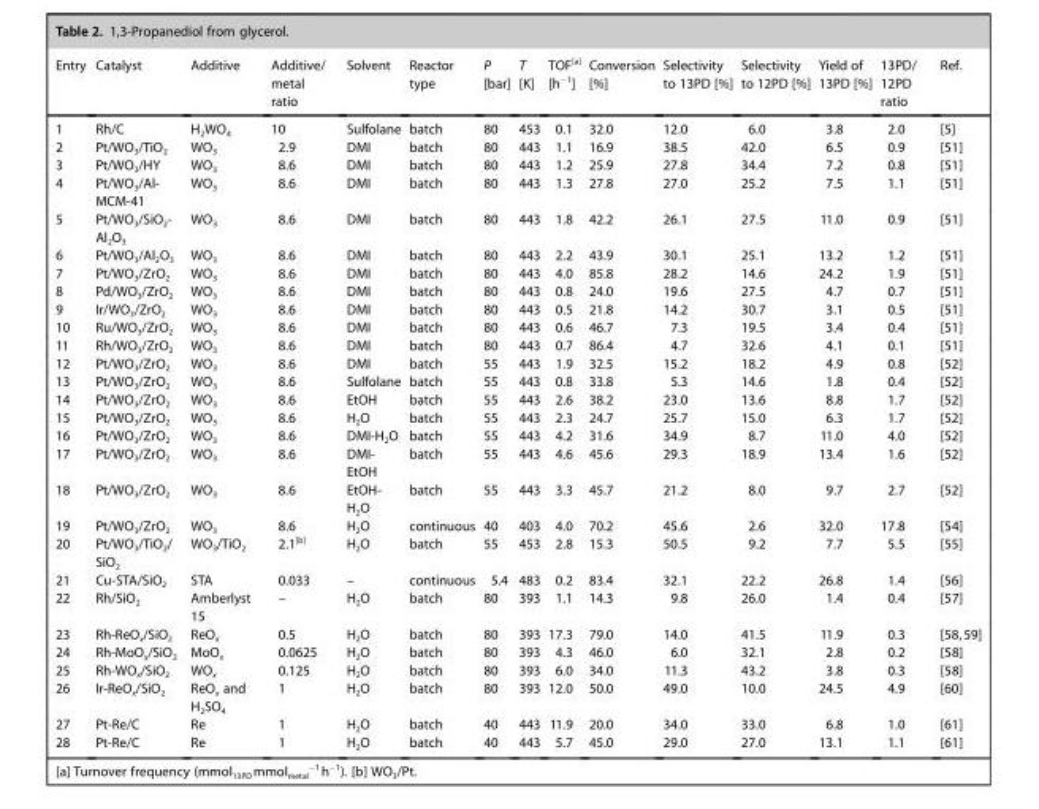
<table><thead><tr><td>Entry</td><td>Catalyst</td><td>Additive</td><td>Additive/ metal ratio</td><td>Solvent</td><td>Reactor type</td><td>P [bar]</td><td>T [K]</td><td>TOF[a] [h<sup>−1</sup>]</td><td>Conversion [%]</td><td>Selectivity to 13PD [%]</td><td>Selectivity to 12PD [%]</td><td>Yield of 13PD [%]</td><td>13PD/ 12PD ratio</td><td>Ref.</td></tr></thead><tbody><tr><td>1</td><td>Rh/C</td><td>H<sub>2</sub>WO<sub>4</sub></td><td>10</td><td>Sulfolane</td><td>batch</td><td>80</td><td>453</td><td>0.1</td><td>32.0</td><td>12.0</td><td>6.0</td><td>3.8</td><td>2.0</td><td>[5]</td></tr><tr><td>2</td><td>Pt/WO<sub>3</sub>/TiO<sub>2</sub></td><td>WO<sub>3</sub></td><td>2.9</td><td>DMI</td><td>batch</td><td>80</td><td>443</td><td>1.1</td><td>16.9</td><td>38.5</td><td>42.0</td><td>6.5</td><td>0.9</td><td>[51]</td></tr><tr><td>3</td><td>Pt/WO<sub>3</sub>/HY</td><td>WO<sub>3</sub></td><td>8.6</td><td>DMI</td><td>batch</td><td>80</td><td>443</td><td>1.2</td><td>25.9</td><td>27.8</td><td>34.4</td><td>7.2</td><td>0.8</td><td>[51]</td></tr><tr><td>4</td><td>Pt/WO<sub>3</sub>/Al- MCM-41</td><td>WO<sub>3</sub></td><td>8.6</td><td>DMI</td><td>batch</td><td>80</td><td>443</td><td>1.3</td><td>27.8</td><td>27.0</td><td>25.2</td><td>7.5</td><td>1.1</td><td>[51]</td></tr><tr><td>5</td><td>Pt/WO<sub>3</sub>/SiO<sub>2</sub>- Al<sub>2</sub>O<sub>3</sub></td><td>WO<sub>3</sub></td><td>8.6</td><td>DMI</td><td>batch</td><td>80</td><td>443</td><td>1.8</td><td>42.2</td><td>26.1</td><td>27.5</td><td>11.0</td><td>0.9</td><td>[51]</td></tr><tr><td>6</td><td>Pt/WO<sub>3</sub>/Al<sub>2</sub>O<sub>3</sub></td><td>WO<sub>3</sub></td><td>8.6</td><td>DMI</td><td>batch</td><td>80</td><td>443</td><td>2.2</td><td>43.9</td><td>30.1</td><td>25.1</td><td>13.2</td><td>1.2</td><td>[51]</td></tr><tr><td>7</td><td>Pt/WO<sub>3</sub>/ZrO<sub>2</sub></td><td>WO<sub>3</sub></td><td>8.6</td><td>DMI</td><td>batch</td><td>80</td><td>443</td><td>4.0</td><td>85.8</td><td>28.2</td><td>14.6</td><td>24.2</td><td>1.9</td><td>[51]</td></tr><tr><td>8</td><td>Pd/WO<sub>3</sub>/ZrO<sub>2</sub></td><td>WO<sub>3</sub></td><td>8.6</td><td>DMI</td><td>batch</td><td>80</td><td>443</td><td>0.8</td><td>24.0</td><td>19.6</td><td>27.5</td><td>4.7</td><td>0.7</td><td>[51]</td></tr><tr><td>9</td><td>Ir/WO<sub>3</sub>/ZrO<sub>2</sub></td><td>WO<sub>3</sub></td><td>8.6</td><td>DMI</td><td>batch</td><td>80</td><td>443</td><td>0.5</td><td>21.8</td><td>14.2</td><td>30.7</td><td>3.1</td><td>0.5</td><td>[51]</td></tr><tr><td>10</td><td>Ru/WO<sub>3</sub>/ZrO<sub>2</sub></td><td>WO<sub>3</sub></td><td>8.6</td><td>DMI</td><td>batch</td><td>80</td><td>443</td><td>0.6</td><td>46.7</td><td>7.3</td><td>19.5</td><td>3.4</td><td>0.4</td><td>[51]</td></tr><tr><td>11</td><td>Rh/WO<sub>3</sub>/ZrO<sub>2</sub></td><td>WO<sub>3</sub></td><td>8.6</td><td>DMI</td><td>batch</td><td>80</td><td>443</td><td>0.7</td><td>86.4</td><td>4.7</td><td>32.6</td><td>4.1</td><td>0.1</td><td>[51]</td></tr><tr><td>12</td><td>Pt/WO<sub>3</sub>/ZrO<sub>2</sub></td><td>WO<sub>3</sub></td><td>8.6</td><td>DMI</td><td>batch</td><td>55</td><td>443</td><td>1.9</td><td>32.5</td><td>15.2</td><td>18.2</td><td>4.9</td><td>0.8</td><td>[52]</td></tr><tr><td>13</td><td>Pt/WO<sub>3</sub>/ZrO<sub>2</sub></td><td>WO<sub>3</sub></td><td>8.6</td><td>Sulfolane</td><td>batch</td><td>55</td><td>443</td><td>0.8</td><td>33.8</td><td>5.3</td><td>14.6</td><td>1.8</td><td>0.4</td><td>[52]</td></tr><tr><td>14</td><td>Pt/WO<sub>3</sub>/ZrO<sub>2</sub></td><td>WO<sub>3</sub></td><td>8.6</td><td>EtOH</td><td>batch</td><td>55</td><td>443</td><td>2.6</td><td>38.2</td><td>23.0</td><td>13.6</td><td>8.8</td><td>1.7</td><td>[52]</td></tr><tr><td>15</td><td>Pt/WO<sub>3</sub>/ZrO<sub>2</sub></td><td>WO<sub>3</sub></td><td>8.6</td><td>H<sub>2</sub>O</td><td>batch</td><td>55</td><td>443</td><td>2.3</td><td>24.7</td><td>25.7</td><td>15.0</td><td>6.3</td><td>1.7</td><td>[52]</td></tr><tr><td>16</td><td>Pt/WO<sub>3</sub>/ZrO<sub>2</sub></td><td>WO<sub>3</sub></td><td>8.6</td><td>DMI-H<sub>2</sub>O</td><td>batch</td><td>55</td><td>443</td><td>4.2</td><td>31.6</td><td>34.9</td><td>8.7</td><td>11.0</td><td>4.0</td><td>[52]</td></tr><tr><td>17</td><td>Pt/WO<sub>3</sub>/ZrO<sub>2</sub></td><td>WO<sub>3</sub></td><td>8.6</td><td>DMI- EtOH</td><td>batch</td><td>55</td><td>443</td><td>4.6</td><td>45.6</td><td>29.3</td><td>18.9</td><td>13.4</td><td>1.6</td><td>[52]</td></tr><tr><td>18</td><td>Pt/WO<sub>3</sub>/ZrO<sub>2</sub></td><td>WO<sub>3</sub></td><td>8.6</td><td>EtOH- H<sub>2</sub>O</td><td>batch</td><td>55</td><td>443</td><td>3.3</td><td>45.7</td><td>21.2</td><td>8.0</td><td>9.7</td><td>2.7</td><td>[52]</td></tr><tr><td>19</td><td>Pt/WO<sub>3</sub>/ZrO<sub>2</sub></td><td>WO<sub>3</sub></td><td>8.6</td><td>H<sub>2</sub>O</td><td>continuous</td><td>40</td><td>403</td><td>4.0</td><td>70.2</td><td>45.6</td><td>2.6</td><td>32.0</td><td>17.8</td><td>[54]</td></tr><tr><td>20</td><td>Pt/WO<sub>3</sub>/TiO<sub>2</sub>/ SiO<sub>2</sub></td><td>WO<sub>3</sub>/TiO<sub>2</sub></td><td>2.1[b]</td><td>H<sub>2</sub>O</td><td>batch</td><td>55</td><td>453</td><td>2.8</td><td>15.3</td><td>50.5</td><td>9.2</td><td>7.7</td><td>5.5</td><td>[55]</td></tr><tr><td>21</td><td>Cu-STA/SiO<sub>2</sub></td><td>STA</td><td>0.033</td><td>–</td><td>continuous</td><td>5.4</td><td>483</td><td>0.2</td><td>83.4</td><td>32.1</td><td>22.2</td><td>26.8</td><td>1.4</td><td>[56]</td></tr><tr><td>22</td><td>Rh/SiO<sub>2</sub></td><td>Amberlyst 15</td><td>–</td><td>H<sub>2</sub>O</td><td>batch</td><td>80</td><td>393</td><td>1.1</td><td>14.3</td><td>9.8</td><td>26.0</td><td>1.4</td><td>0.4</td><td>[57]</td></tr><tr><td>23</td><td>Rh-ReO<sub>x</sub>/SiO<sub>2</sub></td><td>ReO<sub>x</sub></td><td>0.5</td><td>H<sub>2</sub>O</td><td>batch</td><td>80</td><td>393</td><td>17.3</td><td>79.0</td><td>14.0</td><td>41.5</td><td>11.9</td><td>0.3</td><td>[58,59]</td></tr><tr><td>24</td><td>Rh-MoO<sub>x</sub>/SiO<sub>2</sub></td><td>MoO<sub>x</sub></td><td>0.0625</td><td>H<sub>2</sub>O</td><td>batch</td><td>80</td><td>393</td><td>4.3</td><td>46.0</td><td>6.0</td><td>32.1</td><td>2.8</td><td>0.2</td><td>[58]</td></tr><tr><td>25</td><td>Rh-WO<sub>x</sub>/SiO<sub>2</sub></td><td>WO<sub>x</sub></td><td>0.125</td><td>H<sub>2</sub>O</td><td>batch</td><td>80</td><td>393</td><td>6.0</td><td>34.0</td><td>11.3</td><td>43.2</td><td>3.8</td><td>0.3</td><td>[58]</td></tr><tr><td>26</td><td>Ir-ReO<sub>x</sub>/SiO<sub>2</sub></td><td>ReO<sub>x</sub> and H<sub>2</sub>SO<sub>4</sub></td><td>1</td><td>H<sub>2</sub>O</td><td>batch</td><td>80</td><td>393</td><td>12.0</td><td>50.0</td><td>49.0</td><td>10.0</td><td>24.5</td><td>4.9</td><td>[60]</td></tr><tr><td>27</td><td>Pt-Re/C</td><td>Re</td><td>1</td><td>H<sub>2</sub>O</td><td>batch</td><td>40</td><td>443</td><td>11.9</td><td>20.0</td><td>34.0</td><td>33.0</td><td>6.8</td><td>1.0</td><td>[61]</td></tr><tr><td>28</td><td>Pt-Re/C</td><td>Re</td><td>1</td><td>H<sub>2</sub>O</td><td>batch</td><td>40</td><td>443</td><td>5.7</td><td>45.0</td><td>29.0</td><td>27.0</td><td>13.1</td><td>1.1</td><td>[61]</td></tr></tbody></table>